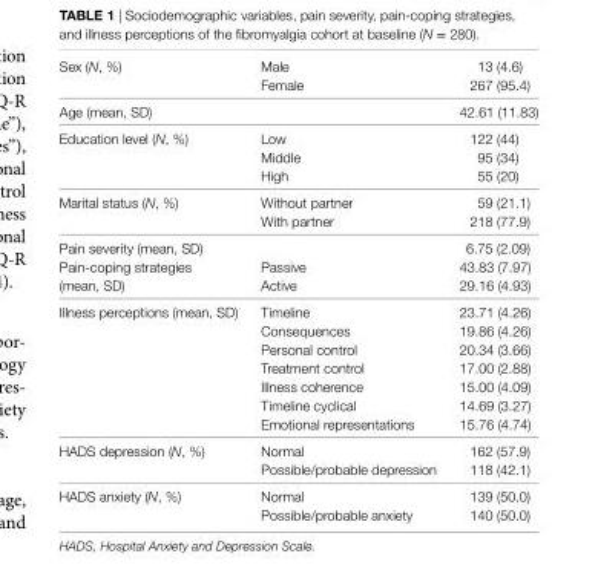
<table><tbody><tr><td rowspan="2">Sex (N, %)</td><td>Male</td><td>13 (4.6)</td></tr><tr><td>Female</td><td>267 (95.4)</td></tr><tr><td>Age (mean, SD)</td><td></td><td>42.61 (11.83)</td></tr><tr><td rowspan="3">Education level (N, %)</td><td>Low</td><td>122 (44)</td></tr><tr><td>Middle</td><td>95 (34)</td></tr><tr><td>High</td><td>55 (20)</td></tr><tr><td rowspan="2">Marital status (N, %)</td><td>Without partner</td><td>59 (21.1)</td></tr><tr><td>With partner</td><td>218 (77.9)</td></tr><tr><td>Pain severity (mean, SD)</td><td></td><td>6.75 (2.09)</td></tr><tr><td rowspan="2">Pain-coping strategies (mean, SD)</td><td>Passive</td><td>43.83 (7.97)</td></tr><tr><td>Active</td><td>29.16 (4.93)</td></tr><tr><td rowspan="7">Illness perceptions (mean, SD)</td><td>Timeline</td><td>23.71 (4.26)</td></tr><tr><td>Consequences</td><td>19.86 (4.26)</td></tr><tr><td>Personal control</td><td>20.34 (3.66)</td></tr><tr><td>Treatment control</td><td>17.00 (2.88)</td></tr><tr><td>Illness coherence</td><td>15.00 (4.09)</td></tr><tr><td>Timeline cyclical</td><td>14.69 (3.27)</td></tr><tr><td>Emotional representations</td><td>15.76 (4.74)</td></tr><tr><td rowspan="2">HADS depression (N, %)</td><td>Normal</td><td>162 (57.9)</td></tr><tr><td>Possible/probable depression</td><td>118 (42.1)</td></tr><tr><td rowspan="2">HADS anxiety (N, %)</td><td>Normal</td><td>139 (50.0)</td></tr><tr><td>Possible/probable anxiety</td><td>140 (50.0)</td></tr></tbody></table>